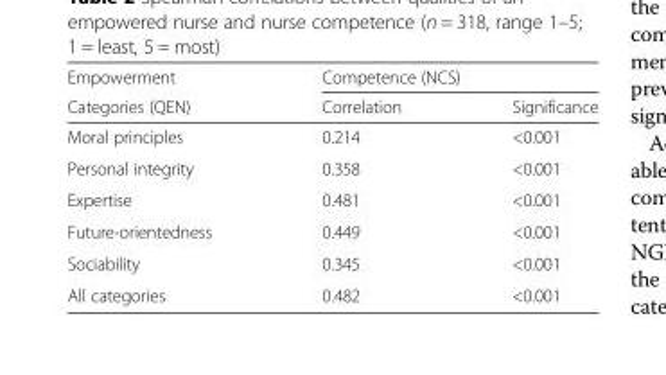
<table><thead><tr><td rowspan="2">Empowerment Categories (QEN)</td><td colspan="2">Competence (NCS)</td></tr><tr><td>Correlation</td><td>Significance</td></tr></thead><tbody><tr><td>Moral principles</td><td>0.214</td><td>&lt;0.001</td></tr><tr><td>Personal integrity</td><td>0.358</td><td>&lt;0.001</td></tr><tr><td>Expertise</td><td>0.481</td><td>&lt;0.001</td></tr><tr><td>Future-orientedness</td><td>0.449</td><td>&lt;0.001</td></tr><tr><td>Sociability</td><td>0.345</td><td>&lt;0.001</td></tr><tr><td>All categories</td><td>0.482</td><td>&lt;0.001</td></tr></tbody></table>